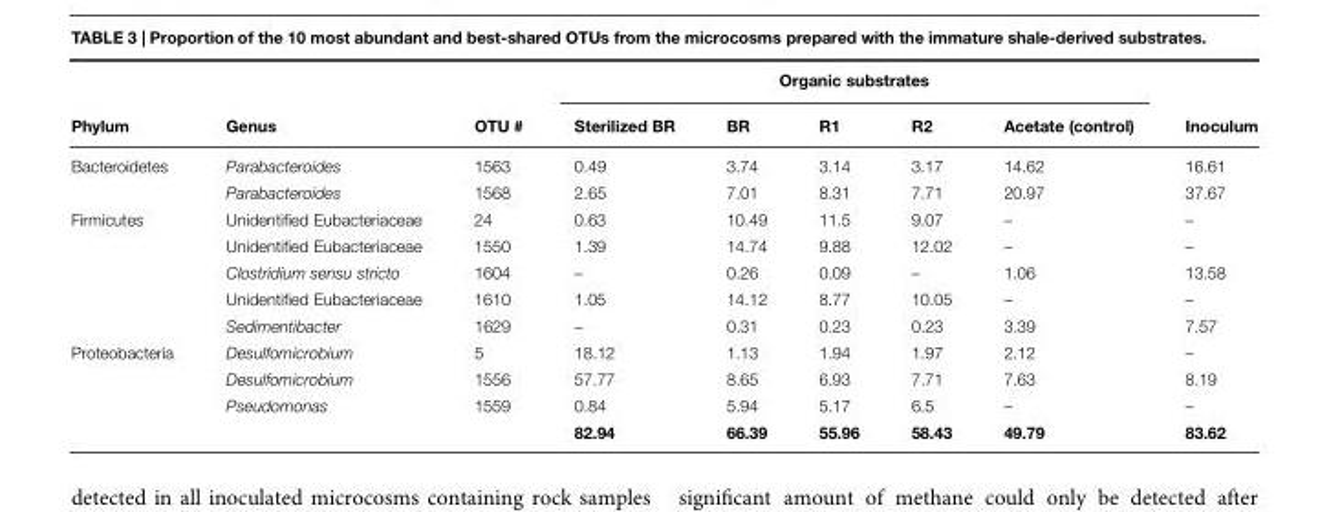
<table><thead><tr><td rowspan="2">Phylum</td><td rowspan="2">Genus</td><td rowspan="2">OTU #</td><td colspan="5">Organic substrates</td><td rowspan="2">Inoculum</td></tr><tr><td>Sterilized BR</td><td>BR</td><td>R1</td><td>R2</td><td>Acetate (control)</td></tr></thead><tbody><tr><td rowspan="2">Bacteroidetes</td><td>Parabacteroides</td><td>1563</td><td>0.49</td><td>3.74</td><td>3.14</td><td>3.17</td><td>14.62</td><td>16.61</td></tr><tr><td>Parabacteroides</td><td>1568</td><td>2.65</td><td>7.01</td><td>8.31</td><td>7.71</td><td>20.97</td><td>37.67</td></tr><tr><td rowspan="5">Firmicutes</td><td>Unidentified Eubacteriaceae</td><td>24</td><td>0.63</td><td>10.49</td><td>11.5</td><td>9.07</td><td>–</td><td>–</td></tr><tr><td>Unidentified Eubacteriaceae</td><td>1550</td><td>1.39</td><td>14.74</td><td>9.88</td><td>12.02</td><td>–</td><td>–</td></tr><tr><td>Clostridium sensu stricto</td><td>1604</td><td>–</td><td>0.26</td><td>0.09</td><td>–</td><td>1.06</td><td>13.58</td></tr><tr><td>Unidentified Eubacteriaceae</td><td>1610</td><td>1.05</td><td>14.12</td><td>8.77</td><td>10.05</td><td>–</td><td>–</td></tr><tr><td>Sedimentibacter</td><td>1629</td><td>–</td><td>0.31</td><td>0.23</td><td>0.23</td><td>3.39</td><td>7.57</td></tr><tr><td rowspan="4">Proteobacteria</td><td>Desulfomicrobium</td><td>5</td><td>18.12</td><td>1.13</td><td>1.94</td><td>1.97</td><td>2.12</td><td>–</td></tr><tr><td>Desulfomicrobium</td><td>1556</td><td>57.77</td><td>8.65</td><td>6.93</td><td>7.71</td><td>7.63</td><td>8.19</td></tr><tr><td>Pseudomonas</td><td>1559</td><td>0.84</td><td>5.94</td><td>5.17</td><td>6.5</td><td>–</td><td>–</td></tr><tr><td></td><td></td><td>82.94</td><td>66.39</td><td>55.96</td><td>58.43</td><td>49.79</td><td>83.62</td></tr></tbody></table>